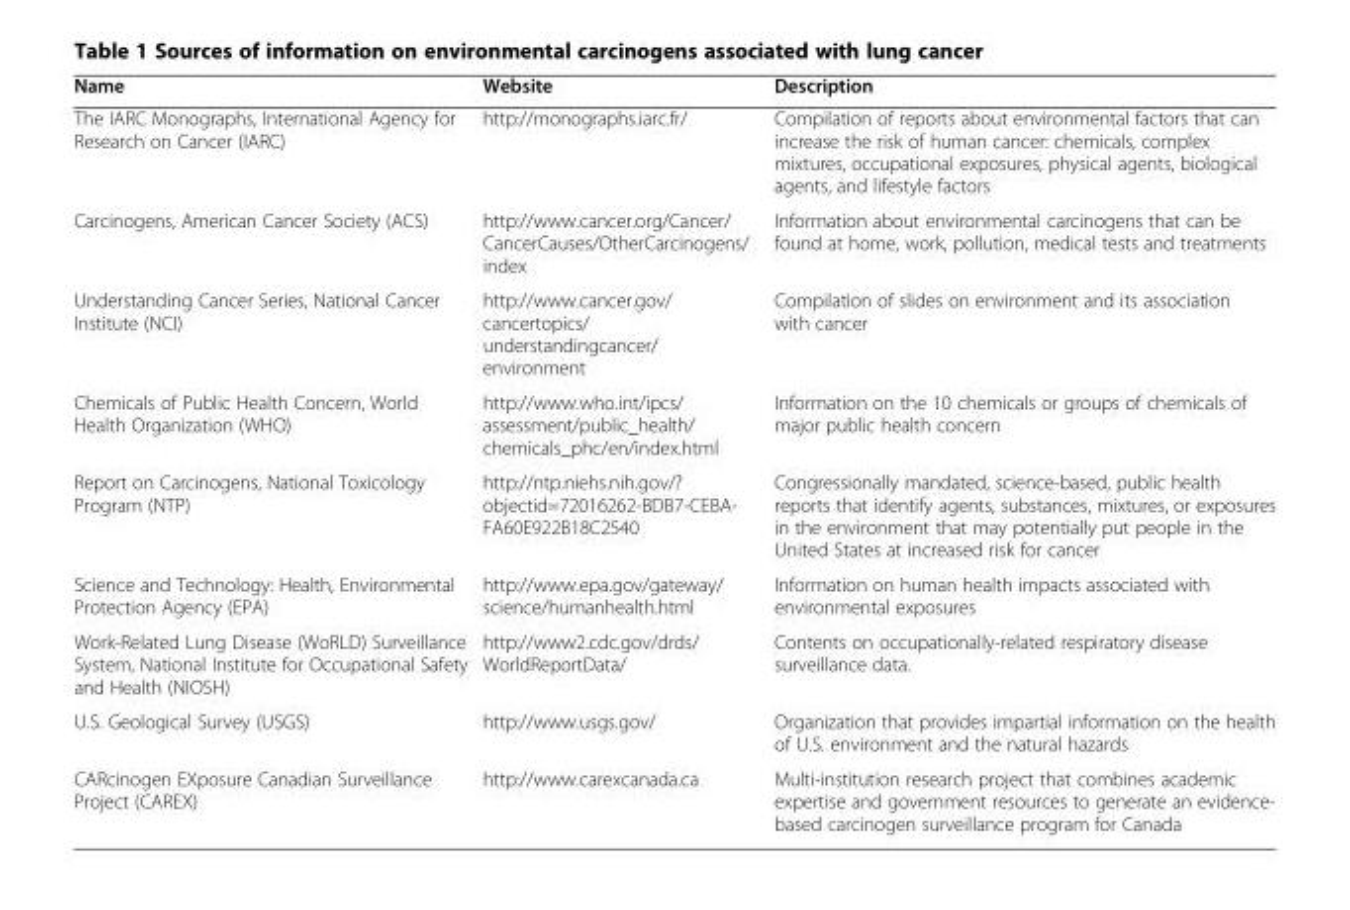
<table><thead><tr><td>Name</td><td>Website</td><td>Description</td></tr></thead><tbody><tr><td>The IARC Monographs, International Agency for Research on Cancer (IARC)</td><td>http://monographs.iarc.fr/</td><td>Compilation of reports about environmental factors that can increase the risk of human cancer: chemicals, complex mixtures, occupational exposures, physical agents, biological agents, and lifestyle factors</td></tr><tr><td>Carcinogens, American Cancer Society (ACS)</td><td>http://www.cancer.org/Cancer/ CancerCauses/OtherCarcinogens/ index</td><td>Information about environmental carcinogens that can be found at home, work, pollution, medical tests and treatments</td></tr><tr><td>Understanding Cancer Series, National Cancer Institute (NCI)</td><td>http://www.cancer.gov/ cancertopics/ understandingcancer/ environment</td><td>Compilation of slides on environment and its association with cancer</td></tr><tr><td>Chemicals of Public Health Concern, World Health Organization (WHO)</td><td>http://www.who.int/ipcs/ assessment/public_health/ chemicals_phc/en/index.html</td><td>Information on the 10 chemicals or groups of chemicals of major public health concern</td></tr><tr><td>Report on Carcinogens, National Toxicology Program (NTP)</td><td>http://ntp.niehs.nih.gov/? objectid=72016262-BDB7-CEBA- FA60E922B18C2540</td><td>Congressionally mandated, science-based, public health reports that identify agents, substances, mixtures, or exposures in the environment that may potentially put people in the United States at increased risk for cancer</td></tr><tr><td>Science and Technology: Health, Environmental Protection Agency (EPA)</td><td>http://www.epa.gov/gateway/ science/humanhealth.html</td><td>Information on human health impacts associated with environmental exposures</td></tr><tr><td>Work-Related Lung Disease (WoRLD) Surveillance System, National Institute for Occupational Safety and Health (NIOSH)</td><td>http://www2.cdc.gov/drds/ WorldReportData/</td><td>Contents on occupationally-related respiratory disease surveillance data.</td></tr><tr><td>U.S. Geological Survey (USGS)</td><td>http://www.usgs.gov/</td><td>Organization that provides impartial information on the health of U.S. environment and the natural hazards</td></tr><tr><td>CARcinogen EXposure Canadian Surveillance Project (CAREX)</td><td>http://www.carexcanada.ca</td><td>Multi-institution research project that combines academic expertise and government resources to generate an evidence- based carcinogen surveillance program for Canada</td></tr></tbody></table>